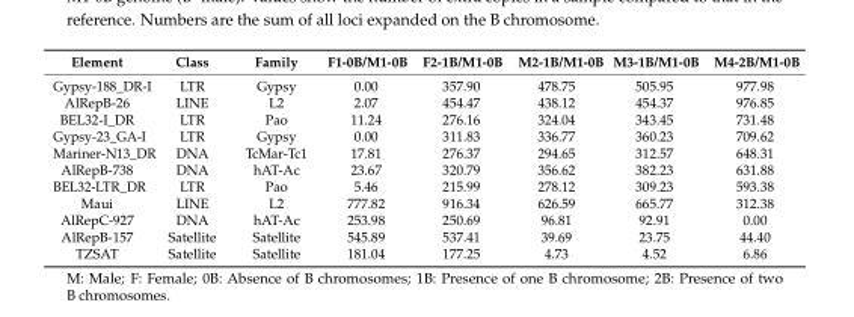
<table><thead><tr><td>Element</td><td>Class</td><td>Family</td><td>F1-0B/M1-0B</td><td>F2-1B/M1-0B</td><td>M2-1B/M1-0B</td><td>M3-1B/M1-0B</td><td>M4-2B/M1-0B</td></tr></thead><tbody><tr><td>Gypsy-188_DR-I</td><td>LTR</td><td>Gypsy</td><td>0.00</td><td>357.90</td><td>478.75</td><td>505.95</td><td>977.98</td></tr><tr><td>AlRepB-26</td><td>LINE</td><td>L2</td><td>2.07</td><td>454.47</td><td>438.12</td><td>454.37</td><td>976.85</td></tr><tr><td>BEL32-I_DR</td><td>LTR</td><td>Pao</td><td>11.24</td><td>276.16</td><td>324.04</td><td>343.45</td><td>731.48</td></tr><tr><td>Gypsy-23_GA-I</td><td>LTR</td><td>Gypsy</td><td>0.00</td><td>311.83</td><td>336.77</td><td>360.23</td><td>709.62</td></tr><tr><td>Mariner-N13_DR</td><td>DNA</td><td>TcMar-Tc1</td><td>17.81</td><td>276.37</td><td>294.65</td><td>312.57</td><td>648.31</td></tr><tr><td>AlRepB-738</td><td>DNA</td><td>hAT-Ac</td><td>23.67</td><td>320.79</td><td>356.62</td><td>382.23</td><td>631.88</td></tr><tr><td>BEL32-LTR_DR</td><td>LTR</td><td>Pao</td><td>5.46</td><td>215.99</td><td>278.12</td><td>309.23</td><td>593.38</td></tr><tr><td>Maui</td><td>LINE</td><td>L2</td><td>777.82</td><td>916.34</td><td>626.59</td><td>665.77</td><td>312.38</td></tr><tr><td>AlRepC-927</td><td>DNA</td><td>hAT-Ac</td><td>253.98</td><td>250.69</td><td>96.81</td><td>92.91</td><td>0.00</td></tr><tr><td>AlRepB-157</td><td>Satellite</td><td>Satellite</td><td>545.89</td><td>537.41</td><td>39.69</td><td>23.75</td><td>44.40</td></tr><tr><td>TZSAT</td><td>Satellite</td><td>Satellite</td><td>181.04</td><td>177.25</td><td>4.73</td><td>4.52</td><td>6.86</td></tr></tbody></table>